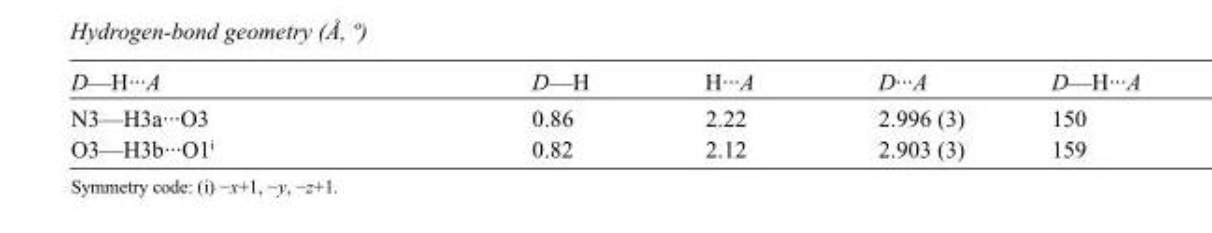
<table><tbody><tr><td>D—H···A</td><td>D—H</td><td>H···A</td><td>D···A</td><td>D—H···A</td></tr><tr><td>N3—H3a···O3</td><td>0.86</td><td>2.22</td><td>2.996 (3)</td><td>150</td></tr><tr><td>O3—H3b···O1<sup>i</sup></td><td>0.82</td><td>2.12</td><td>2.903 (3)</td><td>159</td></tr></tbody></table>